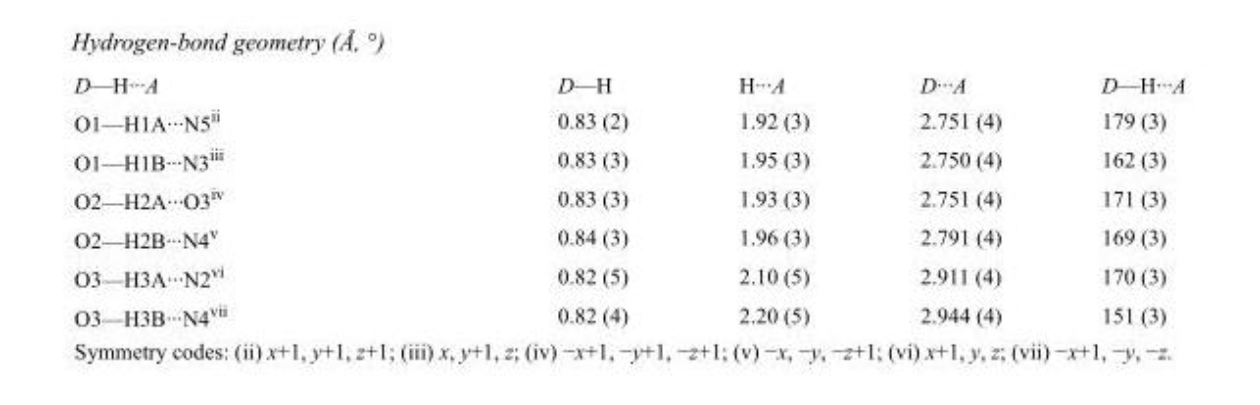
<table><tbody><tr><td>D—H···A</td><td>D—H</td><td>H···A</td><td>D···A</td><td>D—H···A</td></tr><tr><td>O1—H1A···N5<sup>ii</sup></td><td>0.83 (2)</td><td>1.92 (3)</td><td>2.751 (4)</td><td>179 (3)</td></tr><tr><td>O1—H1B···N3<sup>iii</sup></td><td>0.83 (3)</td><td>1.95 (3)</td><td>2.750 (4)</td><td>162 (3)</td></tr><tr><td>O2—H2A···O3<sup>iv</sup></td><td>0.83 (3)</td><td>1.93 (3)</td><td>2.751 (4)</td><td>171 (3)</td></tr><tr><td>O2—H2B···N4<sup>v</sup></td><td>0.84 (3)</td><td>1.96 (3)</td><td>2.791 (4)</td><td>169 (3)</td></tr><tr><td>O3—H3A···N2<sup>vi</sup></td><td>0.82 (5)</td><td>2.10 (5)</td><td>2.911 (4)</td><td>170 (3)</td></tr><tr><td>O3—H3B···N4<sup>vii</sup></td><td>0.82 (4)</td><td>2.20 (5)</td><td>2.944 (4)</td><td>151 (3)</td></tr></tbody></table>